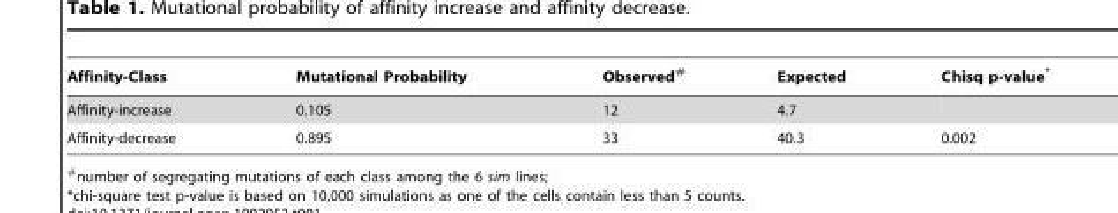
<table><thead><tr><td>Affinity-Class</td><td>Mutational Probability</td><td>Observed#</td><td>Expected</td><td>Chisq p-value*</td></tr></thead><tbody><tr><td>Affinity-increase</td><td>0.105</td><td>12</td><td>4.7</td><td></td></tr><tr><td>Affinity-decrease</td><td>0.895</td><td>33</td><td>40.3</td><td>0.002</td></tr></tbody></table>